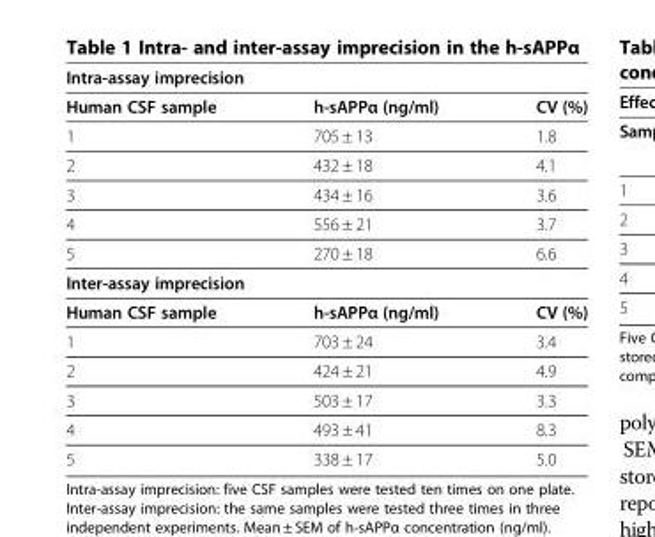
<table><thead><tr><td colspan="3">Intra-assay imprecision</td></tr><tr><td>Human CSF sample</td><td>h-sAPPα (ng/ml)</td><td>CV (%)</td></tr></thead><tbody><tr><td>1</td><td>705 ± 13</td><td>1.8</td></tr><tr><td>2</td><td>432 ± 18</td><td>4.1</td></tr><tr><td>3</td><td>434 ± 16</td><td>3.6</td></tr><tr><td>4</td><td>556 ± 21</td><td>3.7</td></tr><tr><td>5</td><td>270 ± 18</td><td>6.6</td></tr><tr><td colspan="3">Inter-assay imprecision</td></tr><tr><td>Human CSF sample</td><td>h-sAPPα (ng/ml)</td><td>CV (%)</td></tr><tr><td>1</td><td>703 ± 24</td><td>3.4</td></tr><tr><td>2</td><td>424 ± 21</td><td>4.9</td></tr><tr><td>3</td><td>503 ± 17</td><td>3.3</td></tr><tr><td>4</td><td>493 ± 41</td><td>8.3</td></tr><tr><td>5</td><td>338 ± 17</td><td>5.0</td></tr></tbody></table>